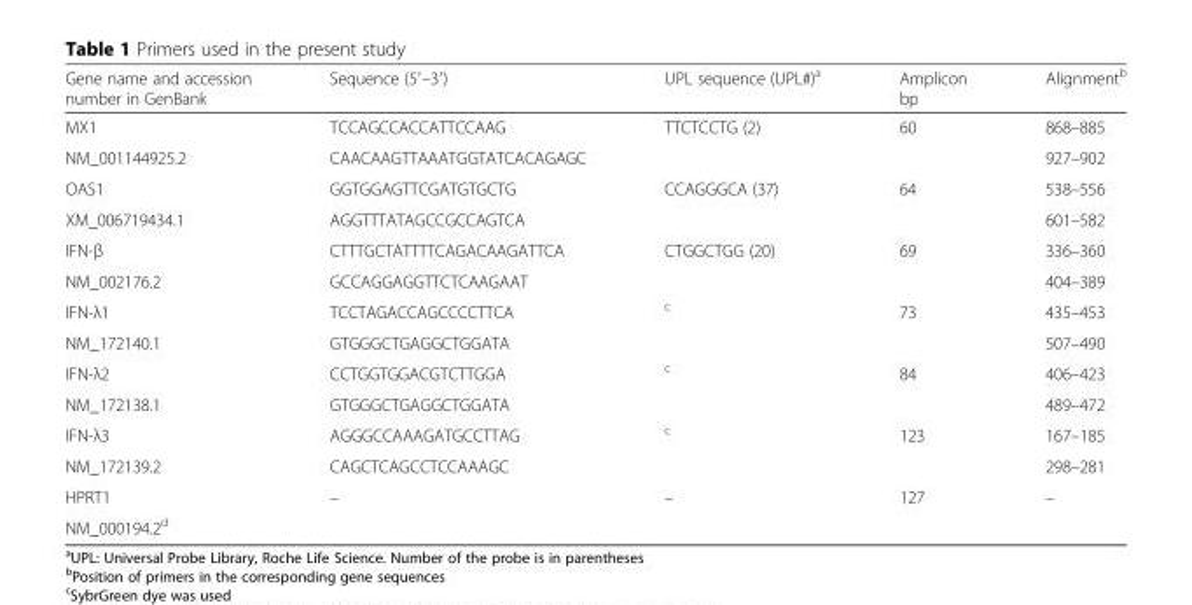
<table><thead><tr><td>Gene name and accession number in GenBank</td><td>Sequence (5′–3′)</td><td>UPL sequence (UPL#)<sup>a</sup></td><td>Amplicon bp</td><td>Alignment<sup>b</sup></td></tr></thead><tbody><tr><td>MX1</td><td>TCCAGCCACCATTCCAAG</td><td rowspan="2">TTCTCCTG (2)</td><td rowspan="2">60</td><td>868–885</td></tr><tr><td>NM_001144925.2</td><td>CAACAAGTTAAATGGTATCACAGAGC</td><td>927–902</td></tr><tr><td>OAS1</td><td>GGTGGAGTTCGATGTGCTG</td><td rowspan="2">CCAGGGCA (37)</td><td rowspan="2">64</td><td>538–556</td></tr><tr><td>XM_006719434.1</td><td>AGGTTTATAGCCGCCAGTCA</td><td>601–582</td></tr><tr><td>IFN-β</td><td>CTTTGCTATTTTCAGACAAGATTCA</td><td rowspan="2">CTGGCTGG (20)</td><td rowspan="2">69</td><td>336–360</td></tr><tr><td>NM_002176.2</td><td>GCCAGGAGGTTCTCAAGAAT</td><td>404–389</td></tr><tr><td>IFN-λ1</td><td>TCCTAGACCAGCCCCTTCA</td><td rowspan="2"><sup>c</sup></td><td rowspan="2">73</td><td>435–453</td></tr><tr><td>NM_172140.1</td><td>GTGGGCTGAGGCTGGATA</td><td>507–490</td></tr><tr><td>IFN-λ2</td><td>CCTGGTGGACGTCTTGGA</td><td rowspan="2"><sup>c</sup></td><td rowspan="2">84</td><td>406–423</td></tr><tr><td>NM_172138.1</td><td>GTGGGCTGAGGCTGGATA</td><td>489–472</td></tr><tr><td>IFN-λ3</td><td>AGGGCCAAAGATGCCTTAG</td><td rowspan="2"><sup>c</sup></td><td rowspan="2">123</td><td>167–185</td></tr><tr><td>NM_172139.2</td><td>CAGCTCAGCCTCCAAAGC</td><td>298–281</td></tr><tr><td>HPRT1</td><td rowspan="2">–</td><td rowspan="2">–</td><td rowspan="2">127</td><td rowspan="2">–</td></tr><tr><td>NM_000194.2<sup>d</sup></td></tr></tbody></table>